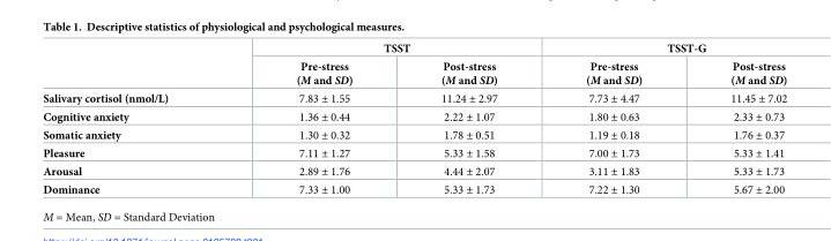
<table><thead><tr><td rowspan="2"></td><td colspan="2">TSST</td><td colspan="2">TSST-G</td></tr><tr><td>Pre-stress (M and SD)</td><td>Post-stress (M and SD)</td><td>Pre-stress (M and SD)</td><td>Post-stress (M and SD)</td></tr></thead><tbody><tr><td>Salivary cortisol (nmol/L)</td><td>7.83 ± 1.55</td><td>11.24 ± 2.97</td><td>7.73 ± 4.47</td><td>11.45 ± 7.02</td></tr><tr><td>Cognitive anxiety</td><td>1.36 ± 0.44</td><td>2.22 ± 1.07</td><td>1.80 ± 0.63</td><td>2.33 ± 0.73</td></tr><tr><td>Somatic anxiety</td><td>1.30 ± 0.32</td><td>1.78 ± 0.51</td><td>1.19 ± 0.18</td><td>1.76 ± 0.37</td></tr><tr><td>Pleasure</td><td>7.11 ± 1.27</td><td>5.33 ± 1.58</td><td>7.00 ± 1.73</td><td>5.33 ± 1.41</td></tr><tr><td>Arousal</td><td>2.89 ± 1.76</td><td>4.44 ± 2.07</td><td>3.11 ± 1.83</td><td>5.33 ± 1.73</td></tr><tr><td>Dominance</td><td>7.33 ± 1.00</td><td>5.33 ± 1.73</td><td>7.22 ± 1.30</td><td>5.67 ± 2.00</td></tr></tbody></table>